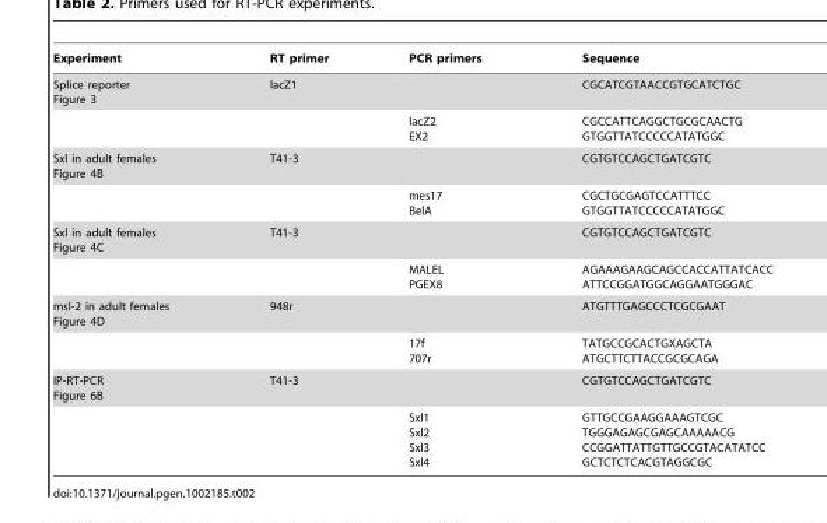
<table><thead><tr><td>Experiment</td><td>RT primer</td><td>PCR primers</td><td>Sequence</td></tr></thead><tbody><tr><td rowspan="2">Splice reporter Figure 3</td><td>lacZ1</td><td></td><td>CGCATCGTAACCGTGCATCTGC</td></tr><tr><td></td><td>lacZ2 EX2</td><td>CGCCATTCAGGCTGCGCAACTG GTGGTTATCCCCCATATGGC</td></tr><tr><td rowspan="2">Sxl in adult females Figure 4B</td><td>T41-3</td><td></td><td>CGTGTCCAGCTGATCGTC</td></tr><tr><td></td><td>mes17 BelA</td><td>CGCTGCGAGTCCATTTCC GTGGTTATCCCCCATATGGC</td></tr><tr><td rowspan="2">Sxl in adult females Figure 4C</td><td>T41-3</td><td></td><td>CGTGTCCAGCTGATCGTC</td></tr><tr><td></td><td>MALEL PGEX8</td><td>AGAAAGAAGCAGCCACCATTATCACC ATTCCGGATGGCAGGAATGGGAC</td></tr><tr><td rowspan="2">msl-2 in adult females Figure 4D</td><td>948r</td><td></td><td>ATGTTTGAGCCCTCGCGAAT</td></tr><tr><td></td><td>17f 707r</td><td>TATGCCGCACTGXAGCTA ATGCTTCTTACCGCGCAGA</td></tr><tr><td rowspan="2">IP-RT-PCR Figure 6B</td><td>T41-3</td><td></td><td>CGTGTCCAGCTGATCGTC</td></tr><tr><td></td><td>Sxl1 Sxl2 Sxl3 Sxl4</td><td>GTTGCCGAAGGAAAGTCGC TGGGAGAGCGAGCAAAAACG CCGGATTATTGTTGCCGTACATATCC GCTCTCTCACGTAGGCGC</td></tr></tbody></table>